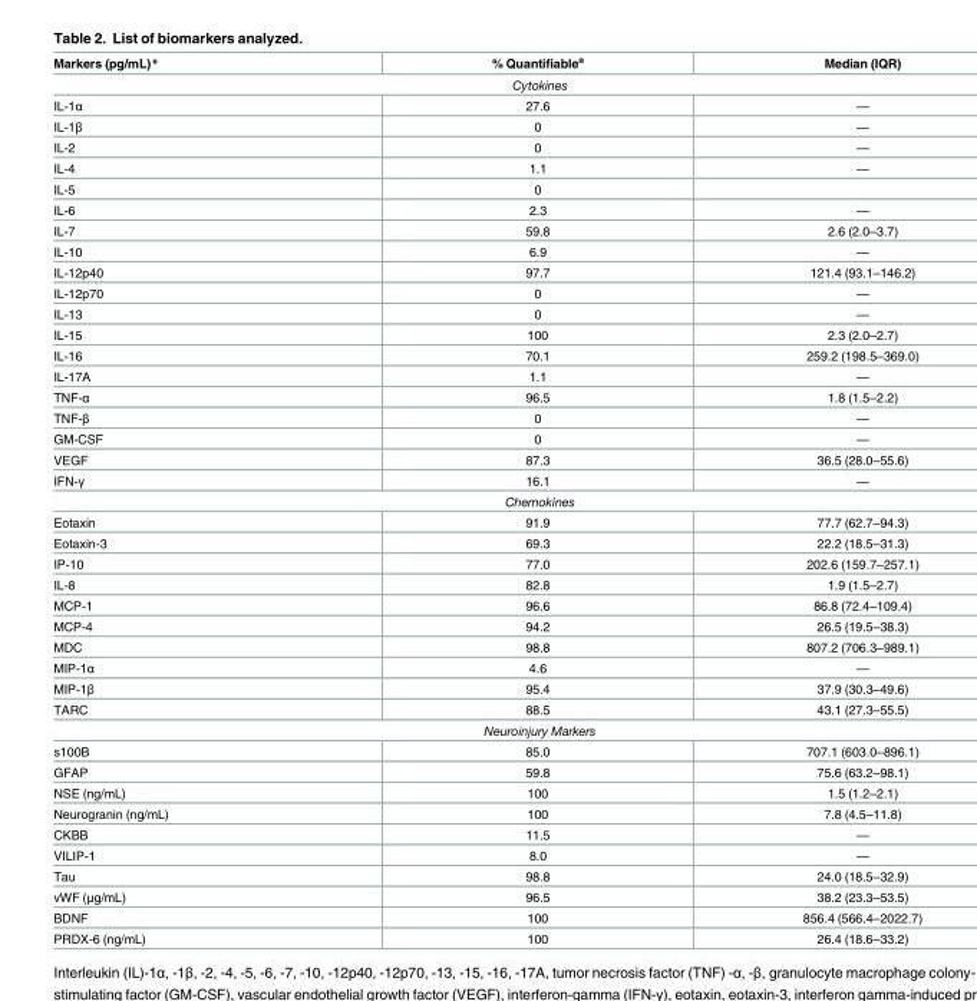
<table><thead><tr><td>Markers (pg/mL)*</td><td>% Quantifiable<sup>a</sup></td><td>Median (IQR)</td></tr></thead><tbody><tr><td colspan="3">Cytokines</td></tr><tr><td>IL-1α</td><td>27.6</td><td>—</td></tr><tr><td>IL-1β</td><td>0</td><td>—</td></tr><tr><td>IL-2</td><td>0</td><td>—</td></tr><tr><td>IL-4</td><td>1.1</td><td>—</td></tr><tr><td>IL-5</td><td>0</td><td></td></tr><tr><td>IL-6</td><td>2.3</td><td>—</td></tr><tr><td>IL-7</td><td>59.8</td><td>2.6 (2.0–3.7)</td></tr><tr><td>IL-10</td><td>6.9</td><td>—</td></tr><tr><td>IL-12p40</td><td>97.7</td><td>121.4 (93.1–146.2)</td></tr><tr><td>IL-12p70</td><td>0</td><td>—</td></tr><tr><td>IL-13</td><td>0</td><td>—</td></tr><tr><td>IL-15</td><td>100</td><td>2.3 (2.0–2.7)</td></tr><tr><td>IL-16</td><td>70.1</td><td>259.2 (198.5–369.0)</td></tr><tr><td>IL-17A</td><td>1.1</td><td>—</td></tr><tr><td>TNF-α</td><td>96.5</td><td>1.8 (1.5–2.2)</td></tr><tr><td>TNF-β</td><td>0</td><td>—</td></tr><tr><td>GM-CSF</td><td>0</td><td>—</td></tr><tr><td>VEGF</td><td>87.3</td><td>36.5 (28.0–55.6)</td></tr><tr><td>IFN-γ</td><td>16.1</td><td>—</td></tr><tr><td colspan="3">Chemokines</td></tr><tr><td>Eotaxin</td><td>91.9</td><td>77.7 (62.7–94.3)</td></tr><tr><td>Eotaxin-3</td><td>69.3</td><td>22.2 (18.5–31.3)</td></tr><tr><td>IP-10</td><td>77.0</td><td>202.6 (159.7–257.1)</td></tr><tr><td>IL-8</td><td>82.8</td><td>1.9 (1.5–2.7)</td></tr><tr><td>MCP-1</td><td>96.6</td><td>86.8 (72.4–109.4)</td></tr><tr><td>MCP-4</td><td>94.2</td><td>26.5 (19.5–38.3)</td></tr><tr><td>MDC</td><td>98.8</td><td>807.2 (706.3–989.1)</td></tr><tr><td>MIP-1α</td><td>4.6</td><td>—</td></tr><tr><td>MIP-1β</td><td>95.4</td><td>37.9 (30.3–49.6)</td></tr><tr><td>TARC</td><td>88.5</td><td>43.1 (27.3–55.5)</td></tr><tr><td colspan="3">Neuroinjury Markers</td></tr><tr><td>s100B</td><td>85.0</td><td>707.1 (603.0–896.1)</td></tr><tr><td>GFAP</td><td>59.8</td><td>75.6 (63.2–98.1)</td></tr><tr><td>NSE (ng/mL)</td><td>100</td><td>1.5 (1.2–2.1)</td></tr><tr><td>Neurogranin (ng/mL)</td><td>100</td><td>7.8 (4.5–11.8)</td></tr><tr><td>CKBB</td><td>11.5</td><td>—</td></tr><tr><td>VILIP-1</td><td>8.0</td><td>—</td></tr><tr><td>Tau</td><td>98.8</td><td>24.0 (18.5–32.9)</td></tr><tr><td>vWF (μg/mL)</td><td>96.5</td><td>38.2 (23.3–53.5)</td></tr><tr><td>BDNF</td><td>100</td><td>856.4 (566.4–2022.7)</td></tr><tr><td>PRDX-6 (ng/mL)</td><td>100</td><td>26.4 (18.6–33.2)</td></tr></tbody></table>